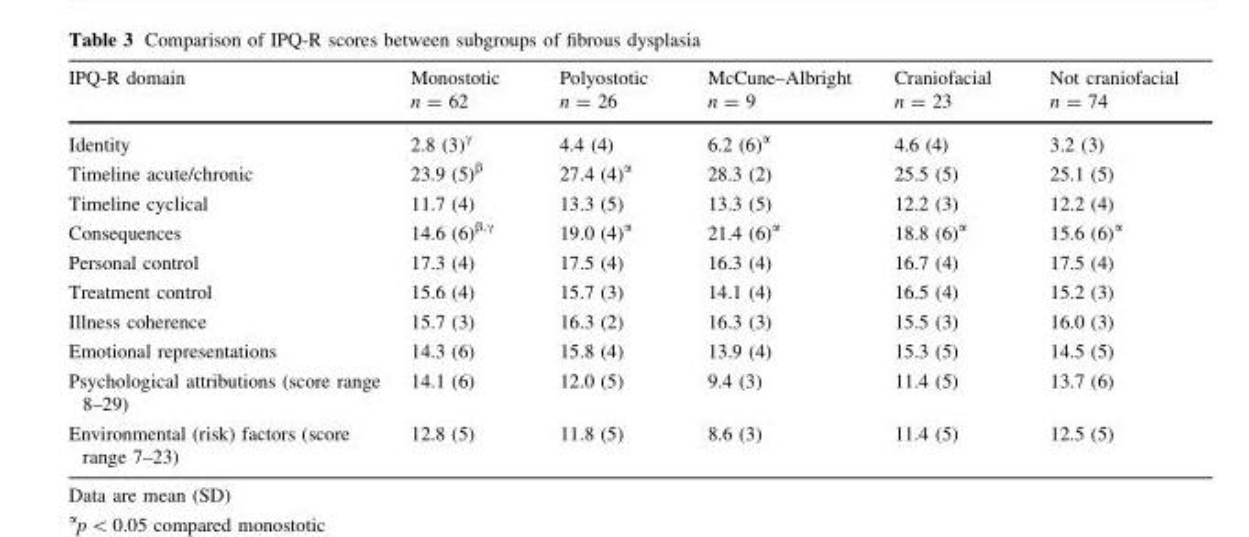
<table><thead><tr><td>IPQ-R domain</td><td>Monostotic n = 62</td><td>Polyostotic n = 26</td><td>McCune–Albright n = 9</td><td>Craniofacial n = 23</td><td>Not craniofacial n = 74</td></tr></thead><tbody><tr><td>Identity</td><td>2.8 (3)<sup>γ</sup></td><td>4.4 (4)</td><td>6.2 (6)<sup>α</sup></td><td>4.6 (4)</td><td>3.2 (3)</td></tr><tr><td>Timeline acute/chronic</td><td>23.9 (5)<sup>β</sup></td><td>27.4 (4)<sup>α</sup></td><td>28.3 (2)</td><td>25.5 (5)</td><td>25.1 (5)</td></tr><tr><td>Timeline cyclical</td><td>11.7 (4)</td><td>13.3 (5)</td><td>13.3 (5)</td><td>12.2 (3)</td><td>12.2 (4)</td></tr><tr><td>Consequences</td><td>14.6 (6)<sup>β,γ</sup></td><td>19.0 (4)<sup>α</sup></td><td>21.4 (6)<sup>α</sup></td><td>18.8 (6)<sup>α</sup></td><td>15.6 (6)<sup>α</sup></td></tr><tr><td>Personal control</td><td>17.3 (4)</td><td>17.5 (4)</td><td>16.3 (4)</td><td>16.7 (4)</td><td>17.5 (4)</td></tr><tr><td>Treatment control</td><td>15.6 (4)</td><td>15.7 (3)</td><td>14.1 (4)</td><td>16.5 (4)</td><td>15.2 (3)</td></tr><tr><td>Illness coherence</td><td>15.7 (3)</td><td>16.3 (2)</td><td>16.3 (3)</td><td>15.5 (3)</td><td>16.0 (3)</td></tr><tr><td>Emotional representations</td><td>14.3 (6)</td><td>15.8 (4)</td><td>13.9 (4)</td><td>15.3 (5)</td><td>14.5 (5)</td></tr><tr><td>Psychological attributions (score range 8–29)</td><td>14.1 (6)</td><td>12.0 (5)</td><td>9.4 (3)</td><td>11.4 (5)</td><td>13.7 (6)</td></tr><tr><td>Environmental (risk) factors (score range 7–23)</td><td>12.8 (5)</td><td>11.8 (5)</td><td>8.6 (3)</td><td>11.4 (5)</td><td>12.5 (5)</td></tr></tbody></table>